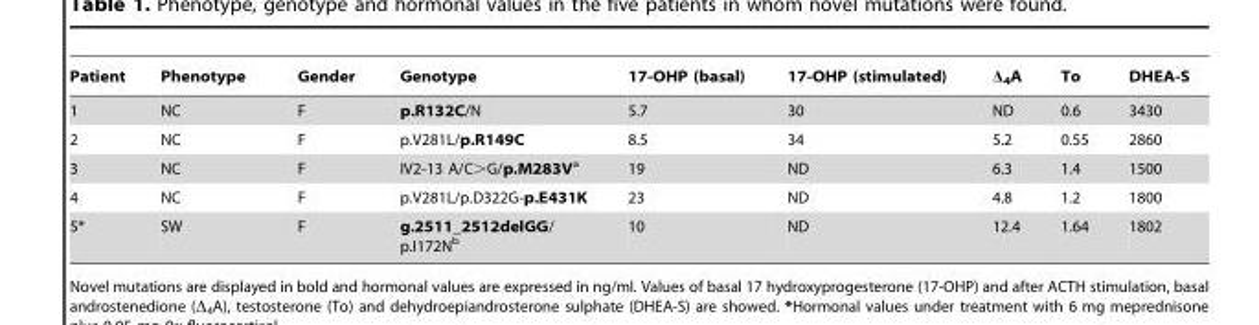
<table><thead><tr><td>Patient</td><td>Phenotype</td><td>Gender</td><td>Genotype</td><td>17-OHP (basal)</td><td>17-OHP (stimulated)</td><td>Δ<sub>4</sub>A</td><td>To</td><td>DHEA-S</td></tr></thead><tbody><tr><td>1</td><td>NC</td><td>F</td><td>p.R132C/N</td><td>5.7</td><td>30</td><td>ND</td><td>0.6</td><td>3430</td></tr><tr><td>2</td><td>NC</td><td>F</td><td>p.V281L/p.R149C</td><td>8.5</td><td>34</td><td>5.2</td><td>0.55</td><td>2860</td></tr><tr><td>3</td><td>NC</td><td>F</td><td>IV2-13 A/C&gt;G/p.M283Va</td><td>19</td><td>ND</td><td>6.3</td><td>1.4</td><td>1500</td></tr><tr><td>4</td><td>NC</td><td>F</td><td>p.V281L/p.D322G-p.E431K</td><td>23</td><td>ND</td><td>4.8</td><td>1.2</td><td>1800</td></tr><tr><td>5*</td><td>SW</td><td>F</td><td>g.2511_2512delGG/ p.I172N<sup>b</sup></td><td>10</td><td>ND</td><td>12.4</td><td>1.64</td><td>1802</td></tr></tbody></table>